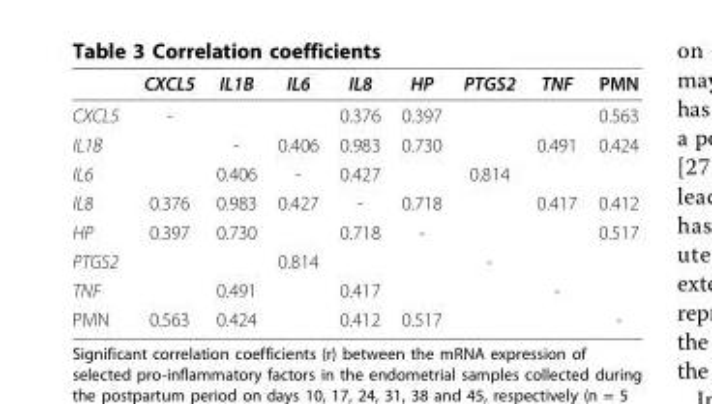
<table><thead><tr><td></td><td>CXCL5</td><td>IL1B</td><td>IL6</td><td>IL8</td><td>HP</td><td>PTGS2</td><td>TNF</td><td>PMN</td></tr></thead><tbody><tr><td>CXCL5</td><td>-</td><td></td><td></td><td>0.376</td><td>0.397</td><td></td><td></td><td>0.563</td></tr><tr><td>IL1B</td><td></td><td>-</td><td>0.406</td><td>0.983</td><td>0.730</td><td></td><td>0.491</td><td>0.424</td></tr><tr><td>IL6</td><td></td><td>0.406</td><td>-</td><td>0.427</td><td></td><td>0.814</td><td></td><td></td></tr><tr><td>IL8</td><td>0.376</td><td>0.983</td><td>0.427</td><td>-</td><td>0.718</td><td></td><td>0.417</td><td>0.412</td></tr><tr><td>HP</td><td>0.397</td><td>0.730</td><td></td><td>0.718</td><td>-</td><td></td><td></td><td>0.517</td></tr><tr><td>PTGS2</td><td></td><td></td><td>0.814</td><td></td><td></td><td>-</td><td></td><td></td></tr><tr><td>TNF</td><td></td><td>0.491</td><td></td><td>0.417</td><td></td><td></td><td>-</td><td></td></tr><tr><td>PMN</td><td>0.563</td><td>0.424</td><td></td><td>0.412</td><td>0.517</td><td></td><td></td><td>-</td></tr></tbody></table>